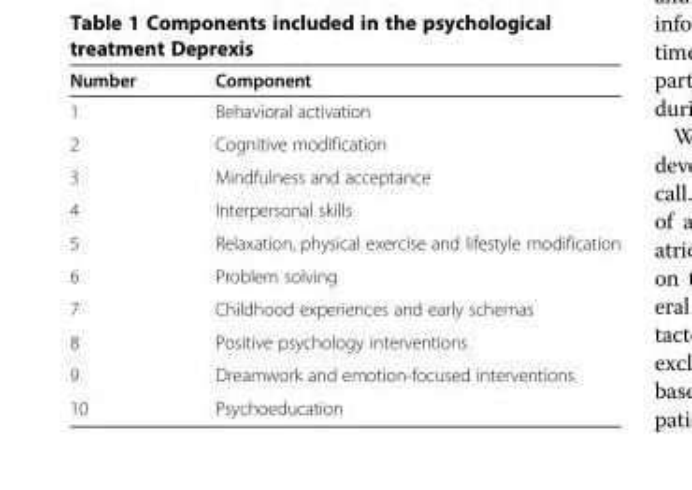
<table><thead><tr><td>Number</td><td>Component</td></tr></thead><tbody><tr><td>1</td><td>Behavioral activation</td></tr><tr><td>2</td><td>Cognitive modification</td></tr><tr><td>3</td><td>Mindfulness and acceptance</td></tr><tr><td>4</td><td>Interpersonal skills</td></tr><tr><td>5</td><td>Relaxation, physical exercise and lifestyle modification</td></tr><tr><td>6</td><td>Problem solving</td></tr><tr><td>7</td><td>Childhood experiences and early schemas</td></tr><tr><td>8</td><td>Positive psychology interventions</td></tr><tr><td>9</td><td>Dreamwork and emotion-focused interventions</td></tr><tr><td>10</td><td>Psychoeducation</td></tr></tbody></table>